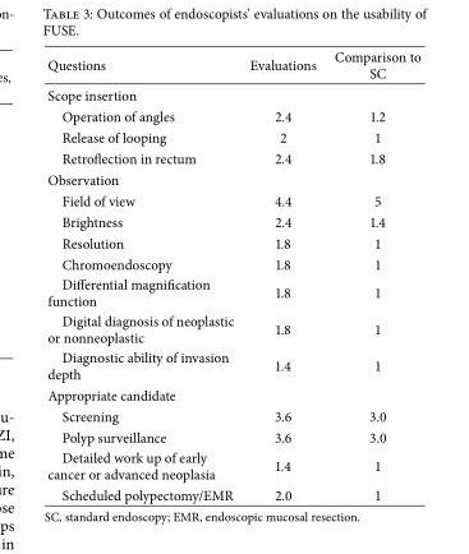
<table><thead><tr><td>Questions</td><td>Evaluations</td><td>Comparison to SC</td></tr></thead><tbody><tr><td colspan="3">Scope insertion</td></tr><tr><td>Operation of angles</td><td>2.4</td><td>1.2</td></tr><tr><td>Release of looping</td><td>2</td><td>1</td></tr><tr><td>Retroflection in rectum</td><td>2.4</td><td>1.8</td></tr><tr><td colspan="3">Observation</td></tr><tr><td>Field of view</td><td>4.4</td><td>5</td></tr><tr><td>Brightness</td><td>2.4</td><td>1.4</td></tr><tr><td>Resolution</td><td>1.8</td><td>1</td></tr><tr><td>Chromoendoscopy</td><td>1.8</td><td>1</td></tr><tr><td>Differential magnification function</td><td>1.8</td><td>1</td></tr><tr><td>Digital diagnosis of neoplastic or nonneoplastic</td><td>1.8</td><td>1</td></tr><tr><td>Diagnostic ability of invasion depth</td><td>1.4</td><td>1</td></tr><tr><td colspan="3">Appropriate candidate</td></tr><tr><td>Screening</td><td>3.6</td><td>3.0</td></tr><tr><td>Polyp surveillance</td><td>3.6</td><td>3.0</td></tr><tr><td>Detailed work up of early cancer or advanced neoplasia</td><td>1.4</td><td>1</td></tr><tr><td>Scheduled polypectomy/EMR</td><td>2.0</td><td>1</td></tr></tbody></table>